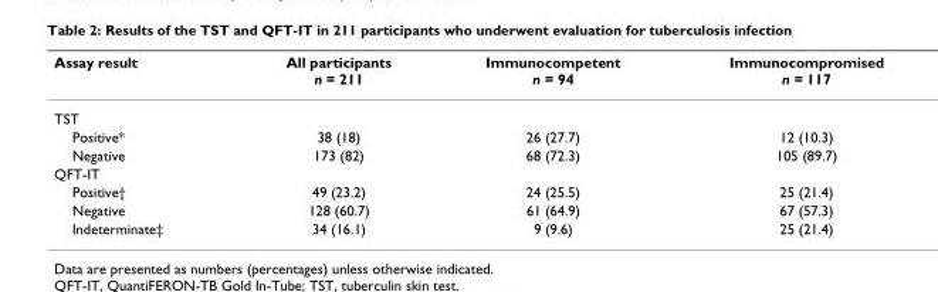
<table><thead><tr><td>Assay result</td><td>All participants n = 211</td><td>Immunocompetent n = 94</td><td>Immunocompromised n = 117</td></tr></thead><tbody><tr><td colspan="4">TST</td></tr><tr><td>Positive*</td><td>38 (18)</td><td>26 (27.7)</td><td>12 (10.3)</td></tr><tr><td>Negative</td><td>173 (82)</td><td>68 (72.3)</td><td>105 (89.7)</td></tr><tr><td colspan="4">QFT-IT</td></tr><tr><td>Positive†</td><td>49 (23.2)</td><td>24 (25.5)</td><td>25 (21.4)</td></tr><tr><td>Negative</td><td>128 (60.7)</td><td>61 (64.9)</td><td>67 (57.3)</td></tr><tr><td>Indeterminate‡</td><td>34 (16.1)</td><td>9 (9.6)</td><td>25 (21.4)</td></tr></tbody></table>